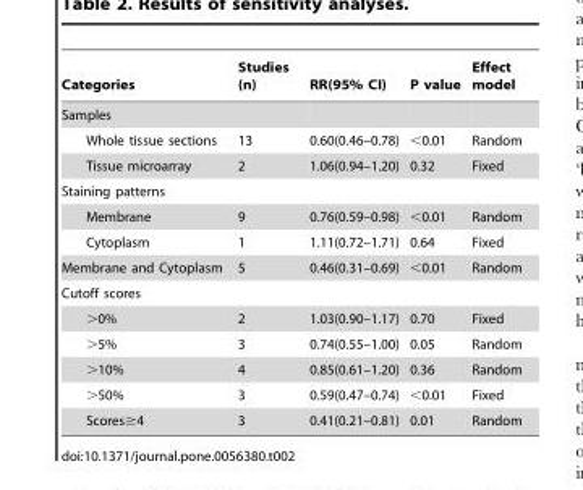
<table><thead><tr><td>Categories</td><td>Studies (n)</td><td>RR(95% CI)</td><td>P value</td><td>Effect model</td></tr></thead><tbody><tr><td colspan="5">Samples</td></tr><tr><td>Whole tissue sections</td><td>13</td><td>0.60(0.46–0.78)</td><td>&lt;0.01</td><td>Random</td></tr><tr><td>Tissue microarray</td><td>2</td><td>1.06(0.94–1.20)</td><td>0.32</td><td>Fixed</td></tr><tr><td colspan="5">Staining patterns</td></tr><tr><td>Membrane</td><td>9</td><td>0.76(0.59–0.98)</td><td>&lt;0.01</td><td>Random</td></tr><tr><td>Cytoplasm</td><td>1</td><td>1.11(0.72–1.71)</td><td>0.64</td><td>Fixed</td></tr><tr><td>Membrane and Cytoplasm</td><td>5</td><td>0.46(0.31–0.69)</td><td>&lt;0.01</td><td>Random</td></tr><tr><td colspan="5">Cutoff scores</td></tr><tr><td>&gt;0%</td><td>2</td><td>1.03(0.90–1.17)</td><td>0.70</td><td>Fixed</td></tr><tr><td>&gt;5%</td><td>3</td><td>0.74(0.55–1.00)</td><td>0.05</td><td>Random</td></tr><tr><td>&gt;10%</td><td>4</td><td>0.85(0.61–1.20)</td><td>0.36</td><td>Random</td></tr><tr><td>&gt;50%</td><td>3</td><td>0.59(0.47–0.74)</td><td>&lt;0.01</td><td>Fixed</td></tr><tr><td>Scores≥4</td><td>3</td><td>0.41(0.21–0.81)</td><td>0.01</td><td>Random</td></tr></tbody></table>